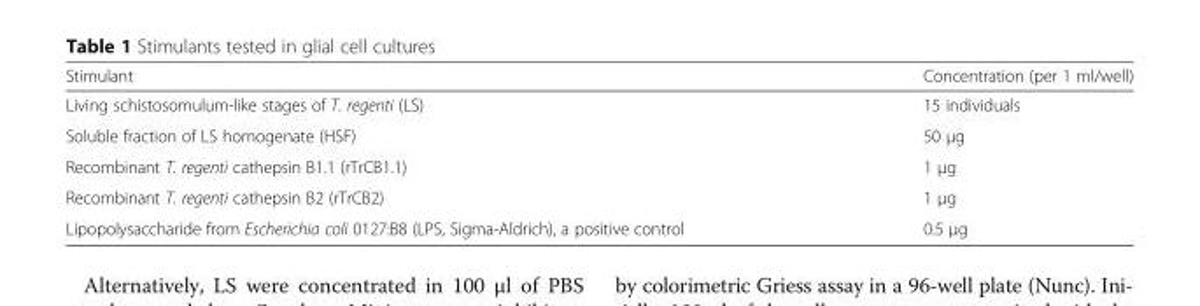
<table><thead><tr><td>Stimulant</td><td>Concentration (per 1 ml/well)</td></tr></thead><tbody><tr><td>Living schistosomulum-like stages of T. regenti (LS)</td><td>15 individuals</td></tr><tr><td>Soluble fraction of LS homogenate (HSF)</td><td>50 μg</td></tr><tr><td>Recombinant T. regenti cathepsin B1.1 (rTrCB1.1)</td><td>1 μg</td></tr><tr><td>Recombinant T. regenti cathepsin B2 (rTrCB2)</td><td>1 μg</td></tr><tr><td>Lipopolysaccharide from Escherichia coli 0127:B8 (LPS, Sigma-Aldrich), a positive control</td><td>0.5 μg</td></tr></tbody></table>